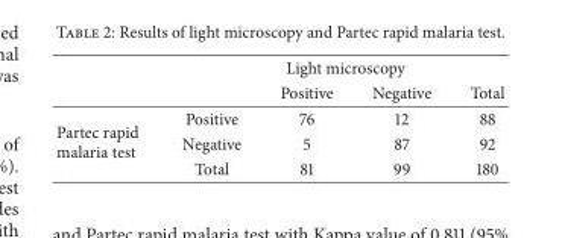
<table><thead><tr><td rowspan="2"></td><td colspan="4">Light microscopy</td></tr><tr><td></td><td>Positive</td><td>Negative</td><td>Total</td></tr></thead><tbody><tr><td rowspan="3">Partec rapid malaria test</td><td>Positive</td><td>76</td><td>12</td><td>88</td></tr><tr><td>Negative</td><td>5</td><td>87</td><td>92</td></tr><tr><td>Total</td><td>81</td><td>99</td><td>180</td></tr></tbody></table>